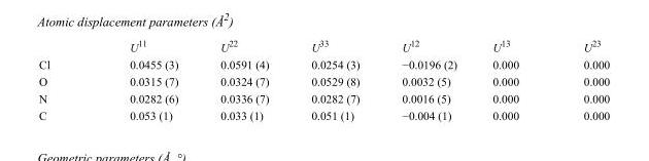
<table><thead><tr><td></td><td>U<sup>11</sup></td><td>U<sup>22</sup></td><td>U<sup>33</sup></td><td>U<sup>12</sup></td><td>U<sup>13</sup></td><td>U<sup>23</sup></td></tr></thead><tbody><tr><td>Cl</td><td>0.0455 (3)</td><td>0.0591 (4)</td><td>0.0254 (3)</td><td>−0.0196 (2)</td><td>0.000</td><td>0.000</td></tr><tr><td>O</td><td>0.0315 (7)</td><td>0.0324 (7)</td><td>0.0529 (8)</td><td>0.0032 (5)</td><td>0.000</td><td>0.000</td></tr><tr><td>N</td><td>0.0282 (6)</td><td>0.0336 (7)</td><td>0.0282 (7)</td><td>0.0016 (5)</td><td>0.000</td><td>0.000</td></tr><tr><td>C</td><td>0.053 (1)</td><td>0.033 (1)</td><td>0.051 (1)</td><td>−0.004 (1)</td><td>0.000</td><td>0.000</td></tr></tbody></table>